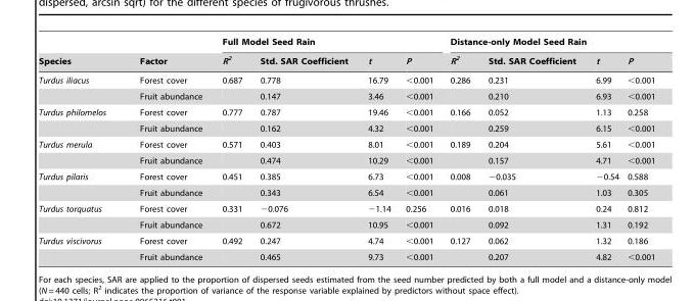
<table><thead><tr><td rowspan="2">Species</td><td rowspan="2">Factor</td><td colspan="4">Full Model Seed Rain</td><td colspan="4">Distance-only Model Seed Rain</td></tr><tr><td>R<sup>2</sup></td><td>Std. SAR Coefficient</td><td>t</td><td>P</td><td>R<sup>2</sup></td><td>Std. SAR Coefficient</td><td>t</td><td>P</td></tr></thead><tbody><tr><td rowspan="2">Turdus iliacus</td><td>Forest cover</td><td>0.687</td><td>0.778</td><td>16.79</td><td>&lt;0.001</td><td>0.286</td><td>0.231</td><td>6.99</td><td>&lt;0.001</td></tr><tr><td>Fruit abundance</td><td></td><td>0.147</td><td>3.46</td><td>&lt;0.001</td><td></td><td>0.210</td><td>6.93</td><td>&lt;0.001</td></tr><tr><td rowspan="2">Turdus philomelos</td><td>Forest cover</td><td>0.777</td><td>0.787</td><td>19.46</td><td>&lt;0.001</td><td>0.166</td><td>0.052</td><td>1.13</td><td>0.258</td></tr><tr><td>Fruit abundance</td><td></td><td>0.162</td><td>4.32</td><td>&lt;0.001</td><td></td><td>0.259</td><td>6.15</td><td>&lt;0.001</td></tr><tr><td rowspan="2">Turdus merula</td><td>Forest cover</td><td>0.571</td><td>0.403</td><td>8.01</td><td>&lt;0.001</td><td>0.189</td><td>0.204</td><td>5.61</td><td>&lt;0.001</td></tr><tr><td>Fruit abundance</td><td></td><td>0.474</td><td>10.29</td><td>&lt;0.001</td><td></td><td>0.157</td><td>4.71</td><td>&lt;0.001</td></tr><tr><td rowspan="2">Turdus pilaris</td><td>Forest cover</td><td>0.451</td><td>0.385</td><td>6.73</td><td>&lt;0.001</td><td>0.008</td><td>−0.035</td><td>−0.54</td><td>0.588</td></tr><tr><td>Fruit abundance</td><td></td><td>0.343</td><td>6.54</td><td>&lt;0.001</td><td></td><td>0.061</td><td>1.03</td><td>0.305</td></tr><tr><td rowspan="2">Turdus torquatus</td><td>Forest cover</td><td>0.331</td><td>−0.076</td><td>−1.14</td><td>0.256</td><td>0.016</td><td>0.018</td><td>0.24</td><td>0.812</td></tr><tr><td>Fruit abundance</td><td></td><td>0.672</td><td>10.95</td><td>&lt;0.001</td><td></td><td>0.092</td><td>1.31</td><td>0.192</td></tr><tr><td rowspan="2">Turdus viscivorus</td><td>Forest cover</td><td>0.492</td><td>0.247</td><td>4.74</td><td>&lt;0.001</td><td>0.127</td><td>0.062</td><td>1.32</td><td>0.186</td></tr><tr><td>Fruit abundance</td><td></td><td>0.465</td><td>9.73</td><td>&lt;0.001</td><td></td><td>0.207</td><td>4.82</td><td>&lt;0.001</td></tr></tbody></table>